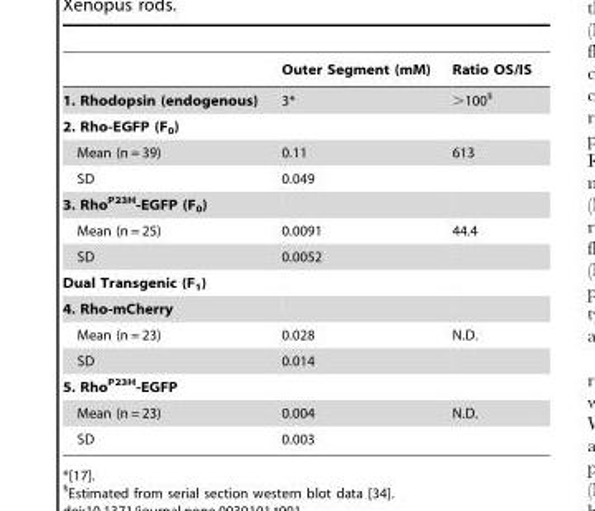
<table><thead><tr><td></td><td>Outer Segment (mM)</td><td>Ratio OS/IS</td></tr></thead><tbody><tr><td>1. Rhodopsin (endogenous)</td><td>3*</td><td>&gt;100§</td></tr><tr><td colspan="3">2. Rho-EGFP (F<sub>0</sub>)</td></tr><tr><td>Mean (n = 39)</td><td>0.11</td><td>613</td></tr><tr><td>SD</td><td>0.049</td><td></td></tr><tr><td colspan="3">3. Rho<sup>P23H</sup>-EGFP (F<sub>0</sub>)</td></tr><tr><td>Mean (n = 25)</td><td>0.0091</td><td>44.4</td></tr><tr><td>SD</td><td>0.0052</td><td></td></tr><tr><td colspan="3">Dual Transgenic (F<sub>1</sub>)</td></tr><tr><td colspan="3">4. Rho-mCherry</td></tr><tr><td>Mean (n = 23)</td><td>0.028</td><td>N.D.</td></tr><tr><td>SD</td><td>0.014</td><td></td></tr><tr><td colspan="3">5. Rho<sup>P23H</sup>-EGFP</td></tr><tr><td>Mean (n = 23)</td><td>0.004</td><td>N.D.</td></tr><tr><td>SD</td><td>0.003</td><td></td></tr></tbody></table>